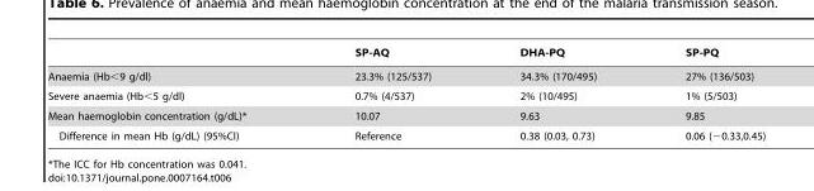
<table><thead><tr><td></td><td>SP-AQ</td><td>DHA-PQ</td><td>SP-PQ</td></tr></thead><tbody><tr><td>Anaemia (Hb&lt;9 g/dl)</td><td>23.3% (125/537)</td><td>34.3% (170/495)</td><td>27% (136/503)</td></tr><tr><td>Severe anaemia (Hb&lt;5 g/dl)</td><td>0.7% (4/537)</td><td>2% (10/495)</td><td>1% (5/503)</td></tr><tr><td>Mean haemoglobin concentration (g/dL)*</td><td>10.07</td><td>9.63</td><td>9.85</td></tr><tr><td>Difference in mean Hb (g/dL) (95%CI)</td><td>Reference</td><td>0.38 (0.03, 0.73)</td><td>0.06 (−0.33,0.45)</td></tr></tbody></table>